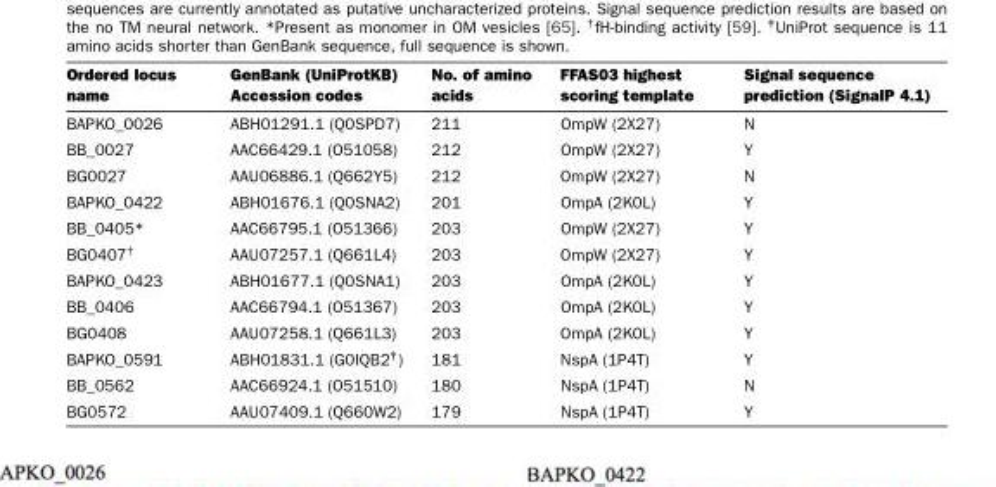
<table><thead><tr><td>Ordered locus name</td><td>GenBank (UniProtKB) Accession codes</td><td>No. of amino acids</td><td>FFAS03 highest scoring template</td><td>Signal sequence prediction (SignalP 4.1)</td></tr></thead><tbody><tr><td>BAPKO_0026</td><td>ABH01291.1 (Q0SPD7)</td><td>211</td><td>OmpW (2X27)</td><td>N</td></tr><tr><td>BB_0027</td><td>AAC66429.1 (O51058)</td><td>212</td><td>OmpW (2X27)</td><td>Y</td></tr><tr><td>BG0027</td><td>AAU06886.1 (Q662Y5)</td><td>212</td><td>OmpW (2X27)</td><td>N</td></tr><tr><td>BAPKO_0422</td><td>ABH01676.1 (Q0SNA2)</td><td>201</td><td>OmpA (2K0L)</td><td>Y</td></tr><tr><td>BB_0405*</td><td>AAC66795.1 (O51366)</td><td>203</td><td>OmpW (2X27)</td><td>Y</td></tr><tr><td>BG0407†</td><td>AAU07257.1 (Q661L4)</td><td>203</td><td>OmpW (2X27)</td><td>Y</td></tr><tr><td>BAPKO_0423</td><td>ABH01677.1 (Q0SNA1)</td><td>203</td><td>OmpA (2K0L)</td><td>Y</td></tr><tr><td>BB_0406</td><td>AAC66794.1 (O51367)</td><td>203</td><td>OmpA (2K0L)</td><td>Y</td></tr><tr><td>BG0408</td><td>AAU07258.1 (Q661L3)</td><td>203</td><td>OmpA (2K0L)</td><td>Y</td></tr><tr><td>BAPKO_0591</td><td>ABH01831.1 (G0IQB2‡)</td><td>181</td><td>NspA (1P4T)</td><td>Y</td></tr><tr><td>BB_0562</td><td>AAC66924.1 (O51510)</td><td>180</td><td>NspA (1P4T)</td><td>N</td></tr><tr><td>BG0572</td><td>AAU07409.1 (Q660W2)</td><td>179</td><td>NspA (1P4T)</td><td>Y</td></tr></tbody></table>